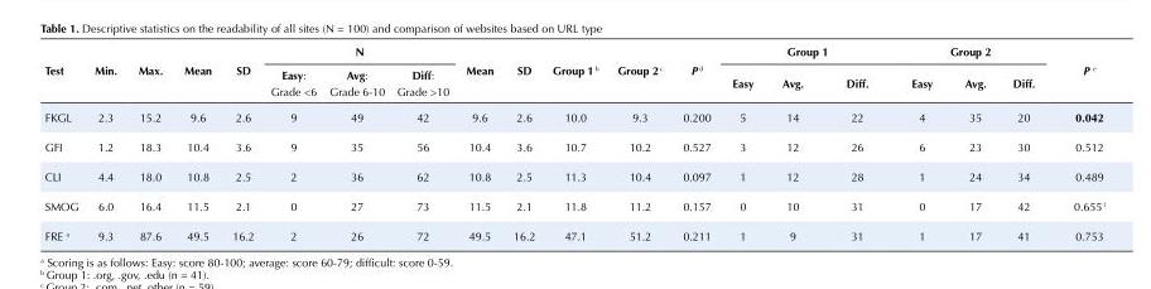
<table><tbody><tr><td rowspan="2">Test</td><td rowspan="2">Min.</td><td rowspan="2">Max.</td><td rowspan="2">Mean</td><td rowspan="2">SD</td><td colspan="3">N</td><td rowspan="2">Mean</td><td rowspan="2">SD</td><td rowspan="2">Group 1 <sup>b</sup></td><td rowspan="2">Group 2 <sup>c</sup></td><td rowspan="2">P <sup>d</sup></td><td colspan="3">Group 1</td><td colspan="3">Group 2</td><td rowspan="2">P <sup>e</sup></td></tr><tr><td>Easy: Grade &lt;6</td><td>Avg: Grade 6-10</td><td>Diff: Grade &gt;10</td><td>Easy</td><td>Avg.</td><td>Diff.</td><td>Easy</td><td>Avg.</td><td>Diff.</td></tr><tr><td>FKGL</td><td>2.3</td><td>15.2</td><td>9.6</td><td>2.6</td><td>9</td><td>49</td><td>42</td><td>9.6</td><td>2.6</td><td>10.0</td><td>9.3</td><td>0.200</td><td>5</td><td>14</td><td>22</td><td>4</td><td>35</td><td>20</td><td>0.042</td></tr><tr><td>GFI</td><td>1.2</td><td>18.3</td><td>10.4</td><td>3.6</td><td>9</td><td>35</td><td>56</td><td>10.4</td><td>3.6</td><td>10.7</td><td>10.2</td><td>0.527</td><td>3</td><td>12</td><td>26</td><td>6</td><td>23</td><td>30</td><td>0.512</td></tr><tr><td>CLI</td><td>4.4</td><td>18.0</td><td>10.8</td><td>2.5</td><td>2</td><td>36</td><td>62</td><td>10.8</td><td>2.5</td><td>11.3</td><td>10.4</td><td>0.097</td><td>1</td><td>12</td><td>28</td><td>1</td><td>24</td><td>34</td><td>0.489</td></tr><tr><td>SMOG</td><td>6.0</td><td>16.4</td><td>11.5</td><td>2.1</td><td>0</td><td>27</td><td>73</td><td>11.5</td><td>2.1</td><td>11.8</td><td>11.2</td><td>0.157</td><td>0</td><td>10</td><td>31</td><td>0</td><td>17</td><td>42</td><td>0.655 <sup>f</sup></td></tr><tr><td>FRE <sup>a</sup></td><td>9.3</td><td>87.6</td><td>49.5</td><td>16.2</td><td>2</td><td>26</td><td>72</td><td>49.5</td><td>16.2</td><td>47.1</td><td>51.2</td><td>0.211</td><td>1</td><td>9</td><td>31</td><td>1</td><td>17</td><td>41</td><td>0.753</td></tr></tbody></table>